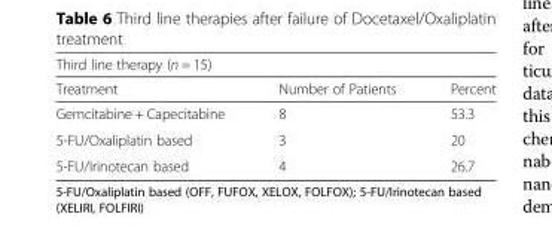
<table><thead><tr><td colspan="3">Third line therapy (n = 15)</td></tr><tr><td>Treatment</td><td>Number of Patients</td><td>Percent</td></tr></thead><tbody><tr><td>Gemcitabine + Capecitabine</td><td>8</td><td>53.3</td></tr><tr><td>5-FU/Oxaliplatin based</td><td>3</td><td>20</td></tr><tr><td>5-FU/Irinotecan based</td><td>4</td><td>26.7</td></tr></tbody></table>